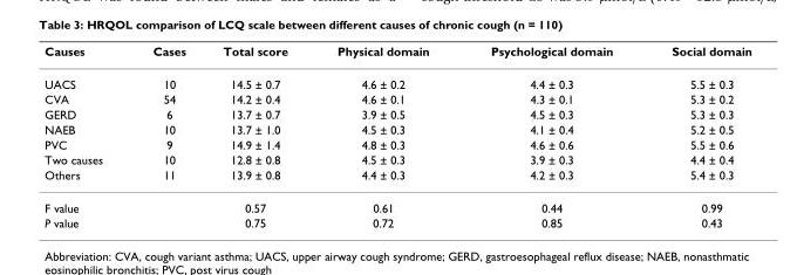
<table><thead><tr><td>Causes</td><td>Cases</td><td>Total score</td><td>Physical domain</td><td>Psychological domain</td><td>Social domain</td></tr></thead><tbody><tr><td>UACS</td><td>10</td><td>14.5 ± 0.7</td><td>4.6 ± 0.2</td><td>4.4 ± 0.3</td><td>5.5 ± 0.3</td></tr><tr><td>CVA</td><td>54</td><td>14.2 ± 0.4</td><td>4.6 ± 0.1</td><td>4.3 ± 0.1</td><td>5.3 ± 0.2</td></tr><tr><td>GERD</td><td>6</td><td>13.7 ± 0.7</td><td>3.9 ± 0.5</td><td>4.5 ± 0.3</td><td>5.3 ± 0.3</td></tr><tr><td>NAEB</td><td>10</td><td>13.7 ± 1.0</td><td>4.5 ± 0.3</td><td>4.1 ± 0.4</td><td>5.2 ± 0.5</td></tr><tr><td>PVC</td><td>9</td><td>14.9 ± 1.4</td><td>4.8 ± 0.3</td><td>4.6 ± 0.6</td><td>5.5 ± 0.6</td></tr><tr><td>Two causes</td><td>10</td><td>12.8 ± 0.8</td><td>4.5 ± 0.3</td><td>3.9 ± 0.3</td><td>4.4 ± 0.4</td></tr><tr><td>Others</td><td>11</td><td>13.9 ± 0.8</td><td>4.4 ± 0.3</td><td>4.2 ± 0.3</td><td>5.4 ± 0.3</td></tr><tr><td>F value</td><td></td><td>0.57</td><td>0.61</td><td>0.44</td><td>0.99</td></tr><tr><td>P value</td><td></td><td>0.75</td><td>0.72</td><td>0.85</td><td>0.43</td></tr></tbody></table>